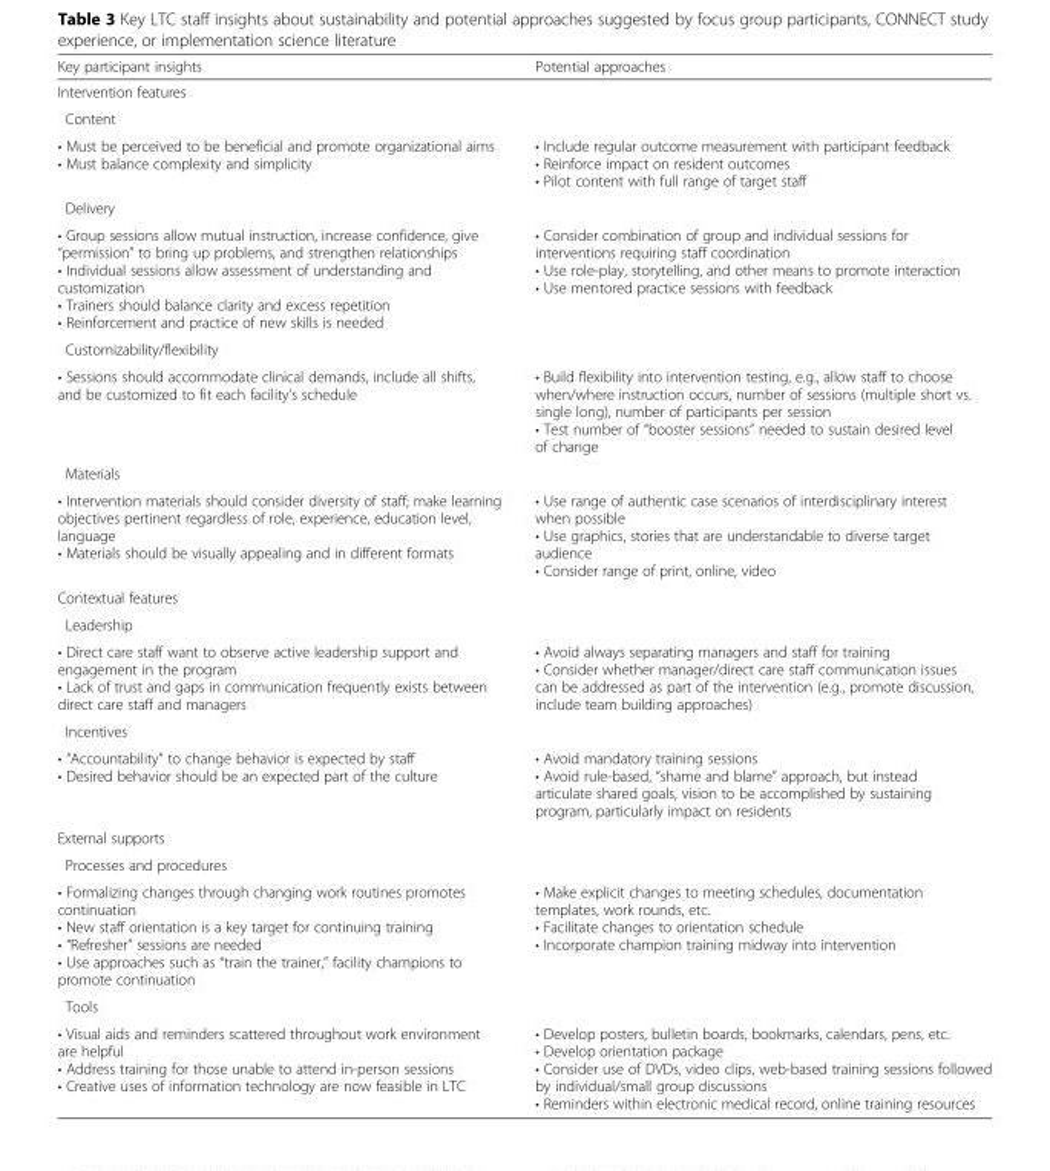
<table><thead><tr><td>Key participant insights</td><td>Potential approaches</td></tr></thead><tbody><tr><td colspan="2">Intervention features</td></tr><tr><td colspan="2">Content</td></tr><tr><td>• Must be perceived to be beneficial and promote organizational aims • Must balance complexity and simplicity</td><td>• Include regular outcome measurement with participant feedback • Reinforce impact on resident outcomes • Pilot content with full range of target staff</td></tr><tr><td colspan="2">Delivery</td></tr><tr><td>• Group sessions allow mutual instruction, increase confidence, give “permission” to bring up problems, and strengthen relationships • Individual sessions allow assessment of understanding and customization • Trainers should balance clarity and excess repetition • Reinforcement and practice of new skills is needed</td><td>• Consider combination of group and individual sessions for interventions requiring staff coordination • Use role-play, storytelling, and other means to promote interaction • Use mentored practice sessions with feedback</td></tr><tr><td colspan="2">Customizability/flexibility</td></tr><tr><td>• Sessions should accommodate clinical demands, include all shifts, and be customized to fit each facility’s schedule</td><td>• Build flexibility into intervention testing, e.g., allow staff to choose when/where instruction occurs, number of sessions (multiple short vs. single long), number of participants per session • Test number of “booster sessions” needed to sustain desired level of change</td></tr><tr><td colspan="2">Materials</td></tr><tr><td>• Intervention materials should consider diversity of staff; make learning objectives pertinent regardless of role, experience, education level, language • Materials should be visually appealing and in different formats</td><td>• Use range of authentic case scenarios of interdisciplinary interest when possible • Use graphics, stories that are understandable to diverse target audience • Consider range of print, online, video</td></tr><tr><td colspan="2">Contextual features</td></tr><tr><td colspan="2">Leadership</td></tr><tr><td>• Direct care staff want to observe active leadership support and engagement in the program • Lack of trust and gaps in communication frequently exists between direct care staff and managers</td><td>• Avoid always separating managers and staff for training • Consider whether manager/direct care staff communication issues can be addressed as part of the intervention (e.g., promote discussion, include team building approaches)</td></tr><tr><td colspan="2">Incentives</td></tr><tr><td>• “Accountability” to change behavior is expected by staff • Desired behavior should be an expected part of the culture</td><td>• Avoid mandatory training sessions • Avoid rule-based, “shame and blame” approach, but instead articulate shared goals, vision to be accomplished by sustaining program, particularly impact on residents</td></tr><tr><td colspan="2">External supports</td></tr><tr><td colspan="2">Processes and procedures</td></tr><tr><td>• Formalizing changes through changing work routines promotes continuation • New staff orientation is a key target for continuing training • “Refresher” sessions are needed • Use approaches such as “train the trainer,” facility champions to promote continuation</td><td>• Make explicit changes to meeting schedules, documentation templates, work rounds, etc. • Facilitate changes to orientation schedule • Incorporate champion training midway into intervention</td></tr><tr><td colspan="2">Tools</td></tr><tr><td>• Visual aids and reminders scattered throughout work environment are helpful • Address training for those unable to attend in-person sessions • Creative uses of information technology are now feasible in LTC</td><td>• Develop posters, bulletin boards, bookmarks, calendars, pens, etc. • Develop orientation package • Consider use of DVDs, video clips, web-based training sessions followed by individual/small group discussions • Reminders within electronic medical record, online training resources</td></tr></tbody></table>